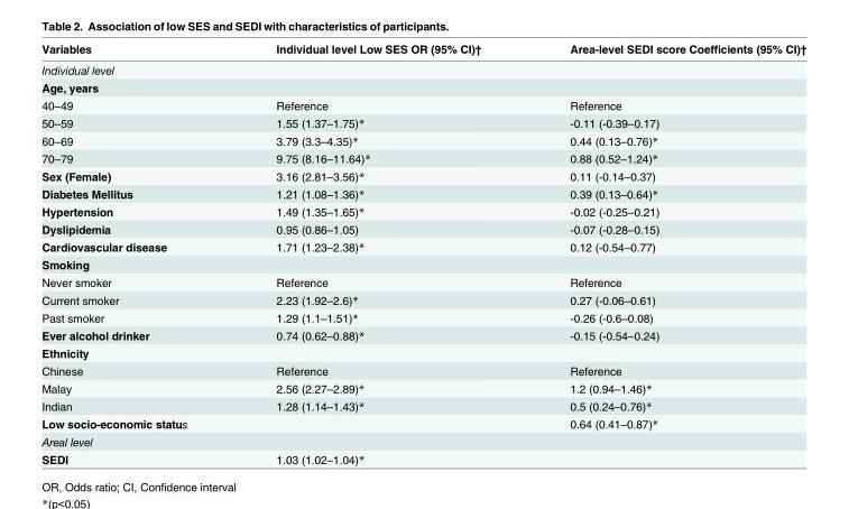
<table><thead><tr><td>Variables</td><td>Individual level Low SES OR (95% CI)†</td><td>Area-level SEDI score Coefficients (95% CI)†</td></tr></thead><tbody><tr><td colspan="3">Individual level</td></tr><tr><td colspan="3">Age, years</td></tr><tr><td>40–49</td><td>Reference</td><td>Reference</td></tr><tr><td>50–59</td><td>1.55 (1.37–1.75)*</td><td>-0.11 (-0.39–0.17)</td></tr><tr><td>60–69</td><td>3.79 (3.3–4.35)*</td><td>0.44 (0.13–0.76)*</td></tr><tr><td>70–79</td><td>9.75 (8.16–11.64)*</td><td>0.88 (0.52–1.24)*</td></tr><tr><td>Sex (Female)</td><td>3.16 (2.81–3.56)*</td><td>0.11 (-0.14–0.37)</td></tr><tr><td>Diabetes Mellitus</td><td>1.21 (1.08–1.36)*</td><td>0.39 (0.13–0.64)*</td></tr><tr><td>Hypertension</td><td>1.49 (1.35–1.65)*</td><td>-0.02 (-0.25–0.21)</td></tr><tr><td>Dyslipidemia</td><td>0.95 (0.86–1.05)</td><td>-0.07 (-0.28–0.15)</td></tr><tr><td>Cardiovascular disease</td><td>1.71 (1.23–2.38)*</td><td>0.12 (-0.54–0.77)</td></tr><tr><td colspan="3">Smoking</td></tr><tr><td>Never smoker</td><td>Reference</td><td>Reference</td></tr><tr><td>Current smoker</td><td>2.23 (1.92–2.6)*</td><td>0.27 (-0.06–0.61)</td></tr><tr><td>Past smoker</td><td>1.29 (1.1–1.51)*</td><td>-0.26 (-0.6–0.08)</td></tr><tr><td>Ever alcohol drinker</td><td>0.74 (0.62–0.88)*</td><td>-0.15 (-0.54–0.24)</td></tr><tr><td colspan="3">Ethnicity</td></tr><tr><td>Chinese</td><td>Reference</td><td>Reference</td></tr><tr><td>Malay</td><td>2.56 (2.27–2.89)*</td><td>1.2 (0.94–1.46)*</td></tr><tr><td>Indian</td><td>1.28 (1.14–1.43)*</td><td>0.5 (0.24–0.76)*</td></tr><tr><td>Low socio-economic status</td><td></td><td>0.64 (0.41–0.87)*</td></tr><tr><td colspan="3">Areal level</td></tr><tr><td>SEDI</td><td>1.03 (1.02–1.04)*</td><td></td></tr></tbody></table>